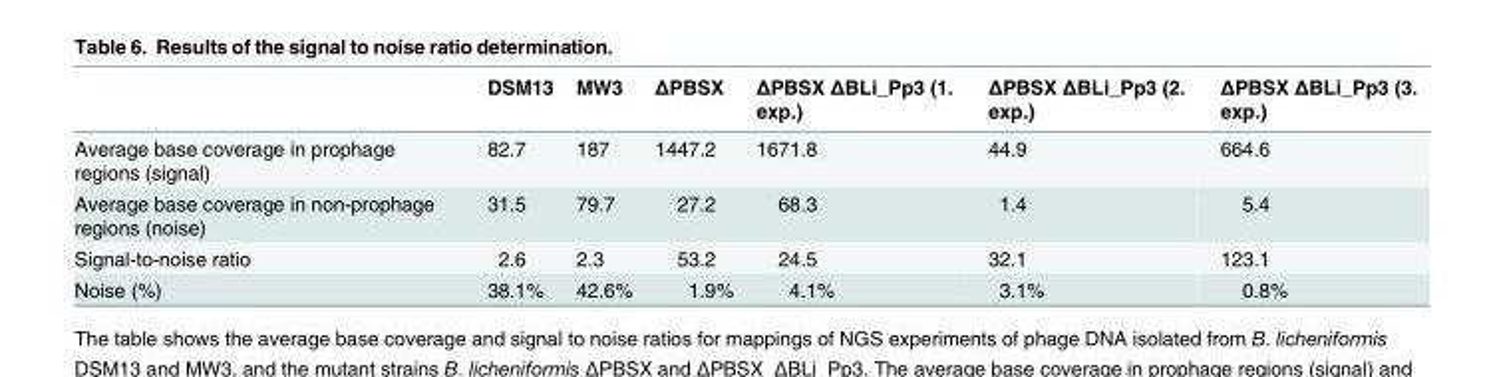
<table><thead><tr><td></td><td>DSM13</td><td>MW3</td><td>ΔPBSX</td><td>ΔPBSX ΔBLi_Pp3 (1. exp.)</td><td>ΔPBSX ΔBLi_Pp3 (2. exp.)</td><td>ΔPBSX ΔBLi_Pp3 (3. exp.)</td></tr></thead><tbody><tr><td>Average base coverage in prophage regions (signal)</td><td>82.7</td><td>187</td><td>1447.2</td><td>1671.8</td><td>44.9</td><td>664.6</td></tr><tr><td>Average base coverage in non-prophage regions (noise)</td><td>31.5</td><td>79.7</td><td>27.2</td><td>68.3</td><td>1.4</td><td>5.4</td></tr><tr><td>Signal-to-noise ratio</td><td>2.6</td><td>2.3</td><td>53.2</td><td>24.5</td><td>32.1</td><td>123.1</td></tr><tr><td>Noise (%)</td><td>38.1%</td><td>42.6%</td><td>1.9%</td><td>4.1%</td><td>3.1%</td><td>0.8%</td></tr></tbody></table>